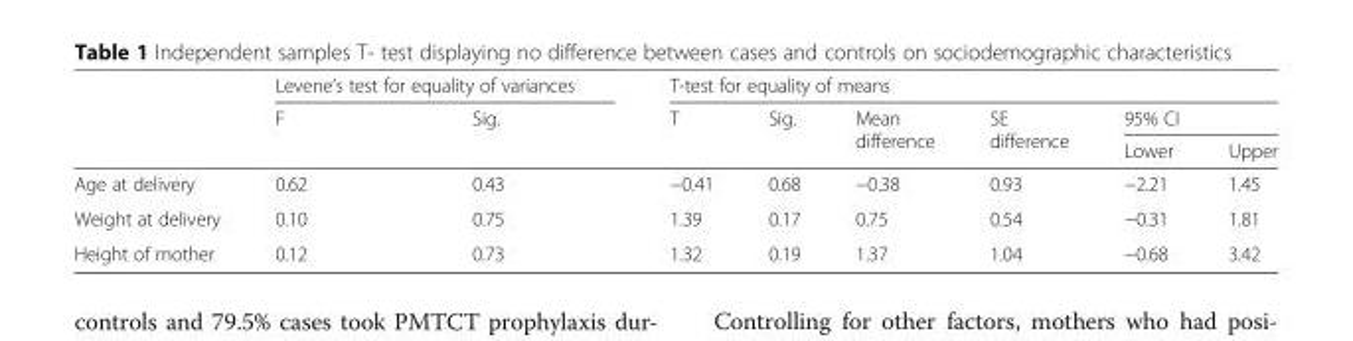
<table><thead><tr><td rowspan="3"></td><td colspan="2">Levene’s test for equality of variances</td><td colspan="6">T-test for equality of means</td></tr><tr><td rowspan="2">F</td><td rowspan="2">Sig.</td><td rowspan="2">T</td><td rowspan="2">Sig.</td><td rowspan="2">Mean difference</td><td rowspan="2">SE difference</td><td colspan="2">95% CI</td></tr><tr><td>Lower</td><td>Upper</td></tr></thead><tbody><tr><td>Age at delivery</td><td>0.62</td><td>0.43</td><td>−0.41</td><td>0.68</td><td>−0.38</td><td>0.93</td><td>−2.21</td><td>1.45</td></tr><tr><td>Weight at delivery</td><td>0.10</td><td>0.75</td><td>1.39</td><td>0.17</td><td>0.75</td><td>0.54</td><td>−0.31</td><td>1.81</td></tr><tr><td>Height of mother</td><td>0.12</td><td>0.73</td><td>1.32</td><td>0.19</td><td>1.37</td><td>1.04</td><td>−0.68</td><td>3.42</td></tr></tbody></table>